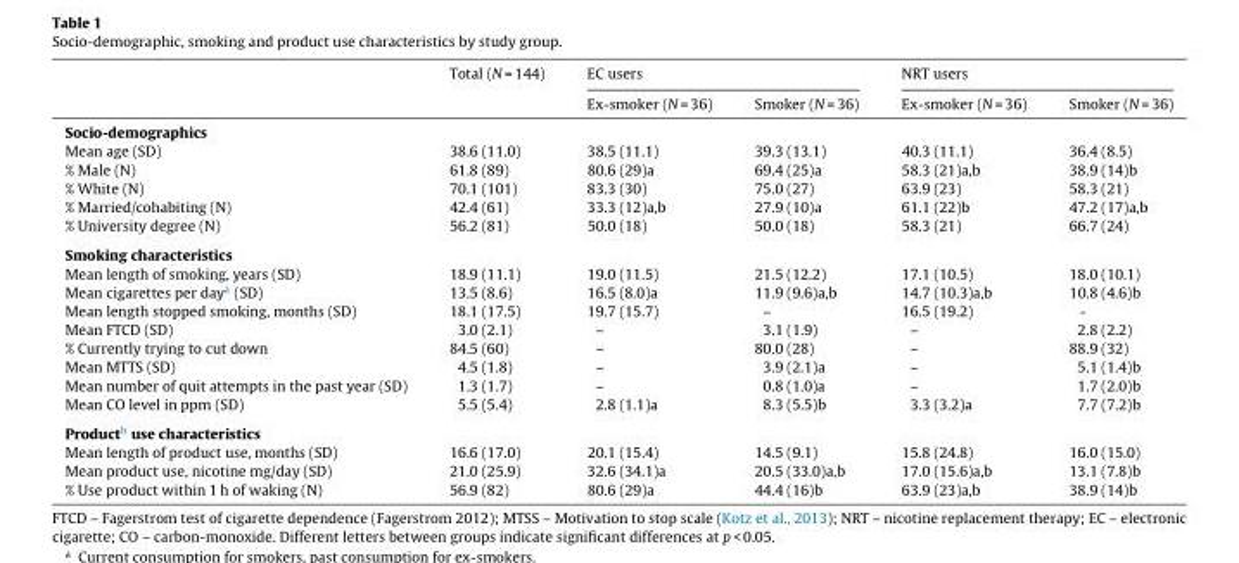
<table><thead><tr><td rowspan="2"></td><td rowspan="2">Total (N = 144)</td><td colspan="2">EC users</td><td colspan="2">NRT users</td></tr><tr><td>Ex-smoker (N = 36)</td><td>Smoker (N = 36)</td><td>Ex-smoker (N = 36)</td><td>Smoker (N = 36)</td></tr></thead><tbody><tr><td colspan="6">Socio-demographics</td></tr><tr><td>Mean age (SD)</td><td>38.6 (11.0)</td><td>38.5 (11.1)</td><td>39.3 (13.1)</td><td>40.3 (11.1)</td><td>36.4 (8.5)</td></tr><tr><td>% Male (N)</td><td>61.8 (89)</td><td>80.6 (29)a</td><td>69.4 (25)a</td><td>58.3 (21)a,b</td><td>38.9 (14)b</td></tr><tr><td>% White (N)</td><td>70.1 (101)</td><td>83.3 (30)</td><td>75.0 (27)</td><td>63.9 (23)</td><td>58.3 (21)</td></tr><tr><td>% Married/cohabiting (N)</td><td>42.4 (61)</td><td>33.3 (12)a,b</td><td>27.9 (10)a</td><td>61.1 (22)b</td><td>47.2 (17)a,b</td></tr><tr><td>% University degree (N)</td><td>56.2 (81)</td><td>50.0 (18)</td><td>50.0 (18)</td><td>58.3 (21)</td><td>66.7 (24)</td></tr><tr><td colspan="6">Smoking characteristics</td></tr><tr><td>Mean length of smoking, years (SD)</td><td>18.9 (11.1)</td><td>19.0 (11.5)</td><td>21.5 (12.2)</td><td>17.1 (10.5)</td><td>18.0 (10.1)</td></tr><tr><td>Mean cigarettes per day<sup>a</sup> (SD)</td><td>13.5 (8.6)</td><td>16.5 (8.0)a</td><td>11.9 (9.6)a,b</td><td>14.7 (10.3)a,b</td><td>10.8 (4.6)b</td></tr><tr><td>Mean length stopped smoking, months (SD)</td><td>18.1 (17.5)</td><td>19.7 (15.7)</td><td>–</td><td>16.5 (19.2)</td><td>-</td></tr><tr><td>Mean FTCD (SD)</td><td>3.0 (2.1)</td><td>–</td><td>3.1 (1.9)</td><td>–</td><td>2.8 (2.2)</td></tr><tr><td>% Currently trying to cut down</td><td>84.5 (60)</td><td>–</td><td>80.0 (28)</td><td>–</td><td>88.9 (32)</td></tr><tr><td>Mean MTTS (SD)</td><td>4.5 (1.8)</td><td>–</td><td>3.9 (2.1)a</td><td>–</td><td>5.1 (1.4)b</td></tr><tr><td>Mean number of quit attempts in the past year (SD)</td><td>1.3 (1.7)</td><td>–</td><td>0.8 (1.0)a</td><td>–</td><td>1.7 (2.0)b</td></tr><tr><td>Mean CO level in ppm (SD)</td><td>5.5 (5.4)</td><td>2.8 (1.1)a</td><td>8.3 (5.5)b</td><td>3.3 (3.2)a</td><td>7.7 (7.2)b</td></tr><tr><td colspan="6">Product<sup>b</sup> use characteristics</td></tr><tr><td>Mean length of product use, months (SD)</td><td>16.6 (17.0)</td><td>20.1 (15.4)</td><td>14.5 (9.1)</td><td>15.8 (24.8)</td><td>16.0 (15.0)</td></tr><tr><td>Mean product use, nicotine mg/day (SD)</td><td>21.0 (25.9)</td><td>32.6 (34.1)a</td><td>20.5 (33.0)a,b</td><td>17.0 (15.6)a,b</td><td>13.1 (7.8)b</td></tr><tr><td>% Use product within 1 h of waking (N)</td><td>56.9 (82)</td><td>80.6 (29)a</td><td>44.4 (16)b</td><td>63.9 (23)a,b</td><td>38.9 (14)b</td></tr></tbody></table>